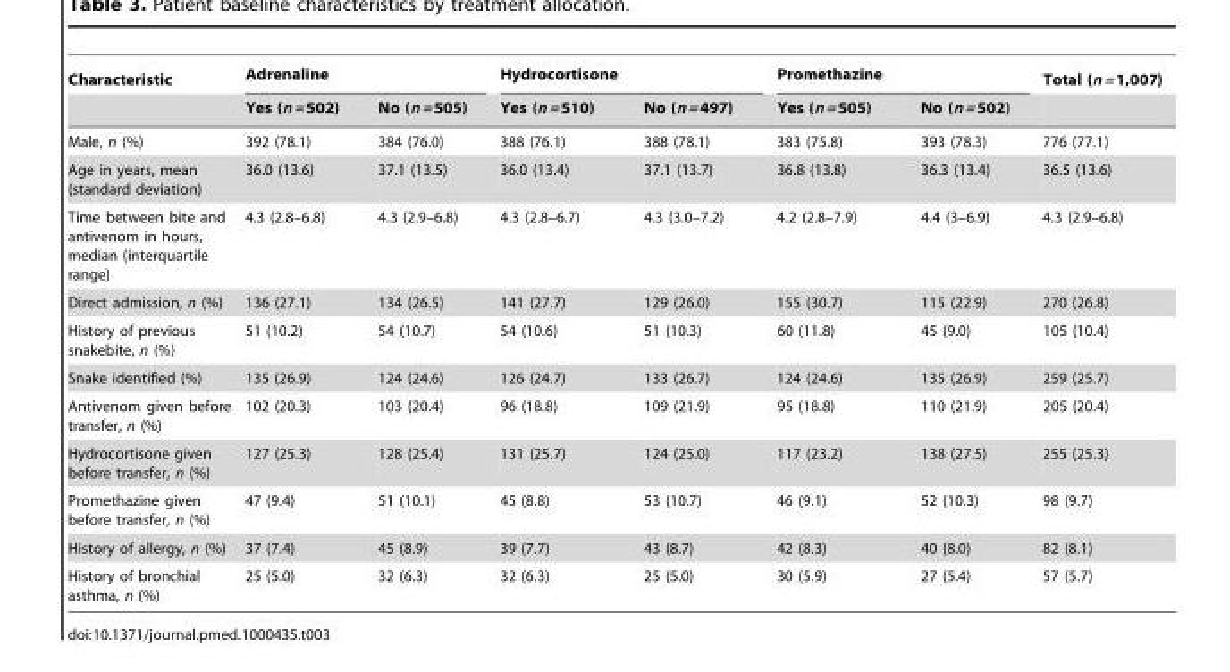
<table><thead><tr><td rowspan="2">Characteristic</td><td colspan="2">Adrenaline</td><td colspan="2">Hydrocortisone</td><td colspan="2">Promethazine</td><td rowspan="2">Total (n = 1,007)</td></tr><tr><td>Yes (n = 502)</td><td>No (n = 505)</td><td>Yes (n = 510)</td><td>No (n = 497)</td><td>Yes (n = 505)</td><td>No (n = 502)</td></tr></thead><tbody><tr><td>Male, n (%)</td><td>392 (78.1)</td><td>384 (76.0)</td><td>388 (76.1)</td><td>388 (78.1)</td><td>383 (75.8)</td><td>393 (78.3)</td><td>776 (77.1)</td></tr><tr><td>Age in years, mean (standard deviation)</td><td>36.0 (13.6)</td><td>37.1 (13.5)</td><td>36.0 (13.4)</td><td>37.1 (13.7)</td><td>36.8 (13.8)</td><td>36.3 (13.4)</td><td>36.5 (13.6)</td></tr><tr><td>Time between bite and antivenom in hours, median (interquartile range)</td><td>4.3 (2.8–6.8)</td><td>4.3 (2.9–6.8)</td><td>4.3 (2.8–6.7)</td><td>4.3 (3.0–7.2)</td><td>4.2 (2.8–7.9)</td><td>4.4 (3–6.9)</td><td>4.3 (2.9–6.8)</td></tr><tr><td>Direct admission, n (%)</td><td>136 (27.1)</td><td>134 (26.5)</td><td>141 (27.7)</td><td>129 (26.0)</td><td>155 (30.7)</td><td>115 (22.9)</td><td>270 (26.8)</td></tr><tr><td>History of previous snakebite, n (%)</td><td>51 (10.2)</td><td>54 (10.7)</td><td>54 (10.6)</td><td>51 (10.3)</td><td>60 (11.8)</td><td>45 (9.0)</td><td>105 (10.4)</td></tr><tr><td>Snake identified (%)</td><td>135 (26.9)</td><td>124 (24.6)</td><td>126 (24.7)</td><td>133 (26.7)</td><td>124 (24.6)</td><td>135 (26.9)</td><td>259 (25.7)</td></tr><tr><td>Antivenom given before transfer, n (%)</td><td>102 (20.3)</td><td>103 (20.4)</td><td>96 (18.8)</td><td>109 (21.9)</td><td>95 (18.8)</td><td>110 (21.9)</td><td>205 (20.4)</td></tr><tr><td>Hydrocortisone given before transfer, n (%)</td><td>127 (25.3)</td><td>128 (25.4)</td><td>131 (25.7)</td><td>124 (25.0)</td><td>117 (23.2)</td><td>138 (27.5)</td><td>255 (25.3)</td></tr><tr><td>Promethazine given before transfer, n (%)</td><td>47 (9.4)</td><td>51 (10.1)</td><td>45 (8.8)</td><td>53 (10.7)</td><td>46 (9.1)</td><td>52 (10.3)</td><td>98 (9.7)</td></tr><tr><td>History of allergy, n (%)</td><td>37 (7.4)</td><td>45 (8.9)</td><td>39 (7.7)</td><td>43 (8.7)</td><td>42 (8.3)</td><td>40 (8.0)</td><td>82 (8.1)</td></tr><tr><td>History of bronchial asthma, n (%)</td><td>25 (5.0)</td><td>32 (6.3)</td><td>32 (6.3)</td><td>25 (5.0)</td><td>30 (5.9)</td><td>27 (5.4)</td><td>57 (5.7)</td></tr></tbody></table>